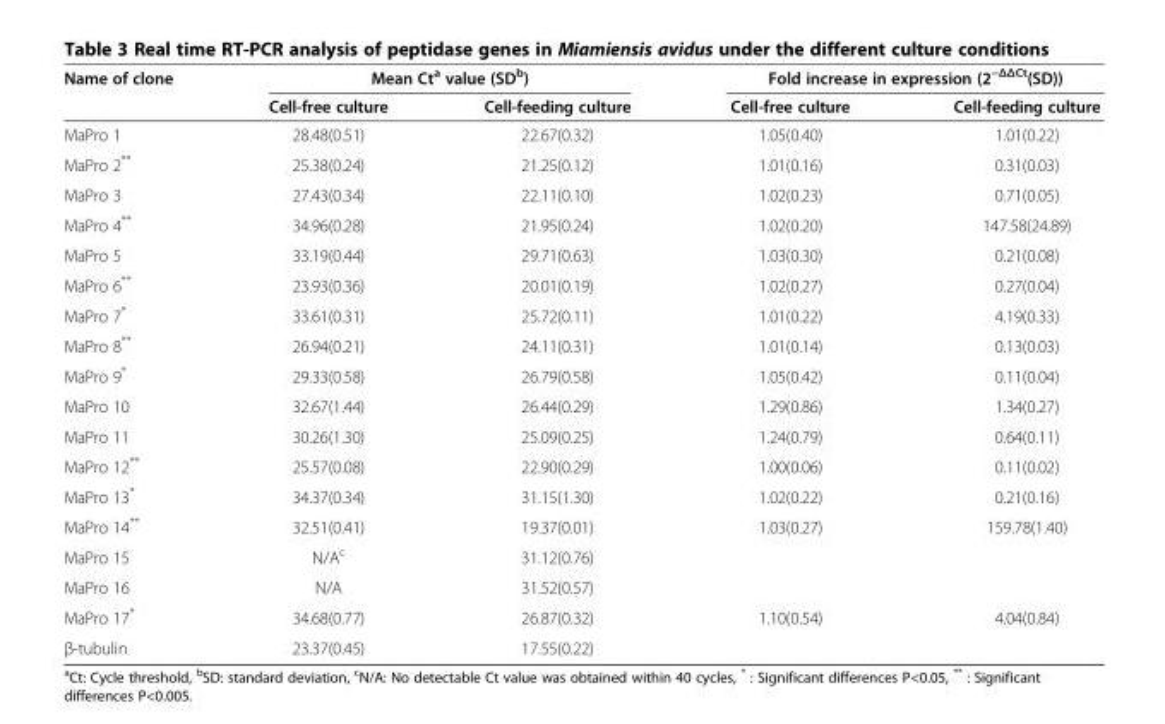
<table><thead><tr><td rowspan="2">Name of clone</td><td colspan="2">Mean Ct<sup>a</sup> value (SD<sup>b</sup>)</td><td colspan="2">Fold increase in expression (2<sup>−ΔΔCt</sup>(SD))</td></tr><tr><td>Cell-free culture</td><td>Cell-feeding culture</td><td>Cell-free culture</td><td>Cell-feeding culture</td></tr></thead><tbody><tr><td>MaPro 1</td><td>28.48(0.51)</td><td>22.67(0.32)</td><td>1.05(0.40)</td><td>1.01(0.22)</td></tr><tr><td>MaPro 2**</td><td>25.38(0.24)</td><td>21.25(0.12)</td><td>1.01(0.16)</td><td>0.31(0.03)</td></tr><tr><td>MaPro 3</td><td>27.43(0.34)</td><td>22.11(0.10)</td><td>1.02(0.23)</td><td>0.71(0.05)</td></tr><tr><td>MaPro 4**</td><td>34.96(0.28)</td><td>21.95(0.24)</td><td>1.02(0.20)</td><td>147.58(24.89)</td></tr><tr><td>MaPro 5</td><td>33.19(0.44)</td><td>29.71(0.63)</td><td>1.03(0.30)</td><td>0.21(0.08)</td></tr><tr><td>MaPro 6**</td><td>23.93(0.36)</td><td>20.01(0.19)</td><td>1.02(0.27)</td><td>0.27(0.04)</td></tr><tr><td>MaPro 7*</td><td>33.61(0.31)</td><td>25.72(0.11)</td><td>1.01(0.22)</td><td>4.19(0.33)</td></tr><tr><td>MaPro 8**</td><td>26.94(0.21)</td><td>24.11(0.31)</td><td>1.01(0.14)</td><td>0.13(0.03)</td></tr><tr><td>MaPro 9*</td><td>29.33(0.58)</td><td>26.79(0.58)</td><td>1.05(0.42)</td><td>0.11(0.04)</td></tr><tr><td>MaPro 10</td><td>32.67(1.44)</td><td>26.44(0.29)</td><td>1.29(0.86)</td><td>1.34(0.27)</td></tr><tr><td>MaPro 11</td><td>30.26(1.30)</td><td>25.09(0.25)</td><td>1.24(0.79)</td><td>0.64(0.11)</td></tr><tr><td>MaPro 12**</td><td>25.57(0.08)</td><td>22.90(0.29)</td><td>1.00(0.06)</td><td>0.11(0.02)</td></tr><tr><td>MaPro 13*</td><td>34.37(0.34)</td><td>31.15(1.30)</td><td>1.02(0.22)</td><td>0.21(0.16)</td></tr><tr><td>MaPro 14**</td><td>32.51(0.41)</td><td>19.37(0.01)</td><td>1.03(0.27)</td><td>159.78(1.40)</td></tr><tr><td>MaPro 15</td><td>N/A<sup>c</sup></td><td>31.12(0.76)</td><td></td><td></td></tr><tr><td>MaPro 16</td><td>N/A</td><td>31.52(0.57)</td><td></td><td></td></tr><tr><td>MaPro 17*</td><td>34.68(0.77)</td><td>26.87(0.32)</td><td>1.10(0.54)</td><td>4.04(0.84)</td></tr><tr><td>β-tubulin</td><td>23.37(0.45)</td><td>17.55(0.22)</td><td></td><td></td></tr></tbody></table>